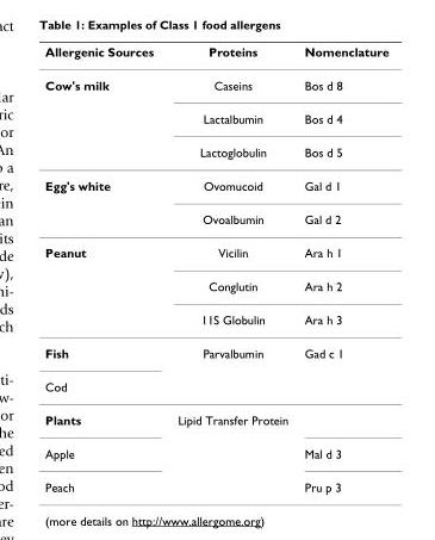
<table><thead><tr><td>Allergenic Sources</td><td>Proteins</td><td>Nomenclature</td></tr></thead><tbody><tr><td rowspan="3">Cow&#x27;s milk</td><td>Caseins</td><td>Bos d 8</td></tr><tr><td>Lactalbumin</td><td>Bos d 4</td></tr><tr><td>Lactoglobulin</td><td>Bos d 5</td></tr><tr><td rowspan="2">Egg&#x27;s white</td><td>Ovomucoid</td><td>Gal d 1</td></tr><tr><td>Ovoalbumin</td><td>Gal d 2</td></tr><tr><td rowspan="3">Peanut</td><td>Vicilin</td><td>Ara h 1</td></tr><tr><td>Conglutin</td><td>Ara h 2</td></tr><tr><td>11S Globulin</td><td>Ara h 3</td></tr><tr><td>Fish</td><td>Parvalbumin</td><td>Gad c 1</td></tr><tr><td colspan="3">Cod</td></tr><tr><td>Plants</td><td>Lipid Transfer Protein</td><td></td></tr><tr><td>Apple</td><td></td><td>Mal d 3</td></tr><tr><td>Peach</td><td></td><td>Pru p 3</td></tr></tbody></table>